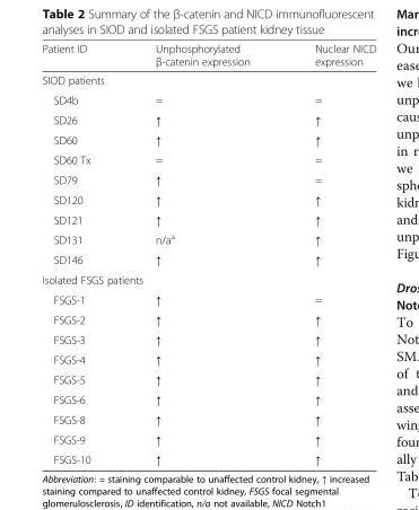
<table><thead><tr><td>Patient ID</td><td>Unphosphorylated β-catenin expression</td><td>Nuclear NICD expression</td></tr></thead><tbody><tr><td colspan="3">SIOD patients</td></tr><tr><td>SD4b</td><td>=</td><td>=</td></tr><tr><td>SD26</td><td>↑</td><td>↑</td></tr><tr><td>SD60</td><td>↑</td><td>↑</td></tr><tr><td>SD60 Tx</td><td>=</td><td>=</td></tr><tr><td>SD79</td><td>↑</td><td>=</td></tr><tr><td>SD120</td><td>↑</td><td>↑</td></tr><tr><td>SD121</td><td>↑</td><td>↑</td></tr><tr><td>SD131</td><td>n/a<sup>a</sup></td><td>↑</td></tr><tr><td>SD146</td><td>↑</td><td>↑</td></tr><tr><td colspan="3">Isolated FSGS patients</td></tr><tr><td>FSGS-1</td><td>↑</td><td>=</td></tr><tr><td>FSGS-2</td><td>↑</td><td>↑</td></tr><tr><td>FSGS-3</td><td>↑</td><td>↑</td></tr><tr><td>FSGS-4</td><td>↑</td><td>↑</td></tr><tr><td>FSGS-5</td><td>↑</td><td>↑</td></tr><tr><td>FSGS-6</td><td>↑</td><td>↑</td></tr><tr><td>FSGS-8</td><td>↑</td><td>↑</td></tr><tr><td>FSGS-9</td><td>↑</td><td>↑</td></tr><tr><td>FSGS-10</td><td>↑</td><td>↑</td></tr></tbody></table>